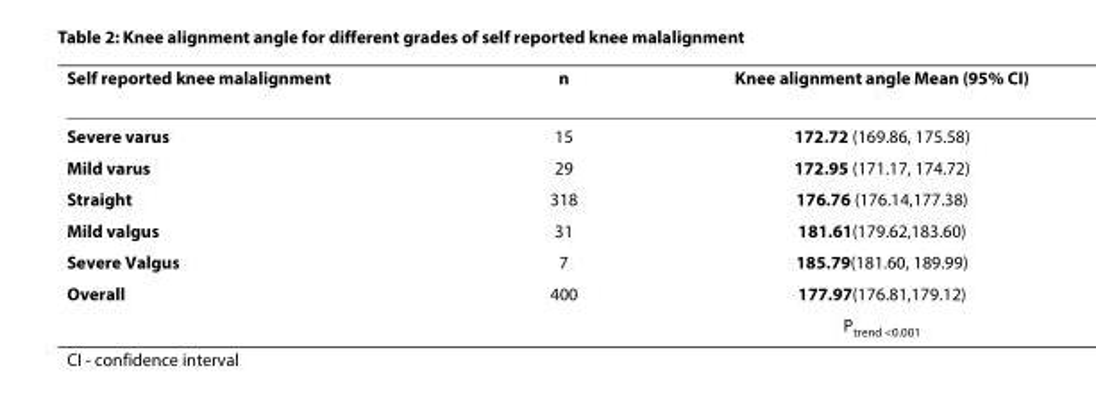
<table><thead><tr><td>Self reported knee malalignment</td><td>n</td><td>Knee alignment angle Mean (95% CI)</td></tr></thead><tbody><tr><td>Severe varus</td><td>15</td><td>172.72 (169.86, 175.58)</td></tr><tr><td>Mild varus</td><td>29</td><td>172.95 (171.17, 174.72)</td></tr><tr><td>Straight</td><td>318</td><td>176.76 (176.14,177.38)</td></tr><tr><td>Mild valgus</td><td>31</td><td>181.61(179.62,183.60)</td></tr><tr><td>Severe Valgus</td><td>7</td><td>185.79(181.60, 189.99)</td></tr><tr><td rowspan="2">Overall</td><td>400</td><td>177.97(176.81,179.12)</td></tr><tr><td></td><td>P<sub>trend &lt;0.001</sub></td></tr></tbody></table>